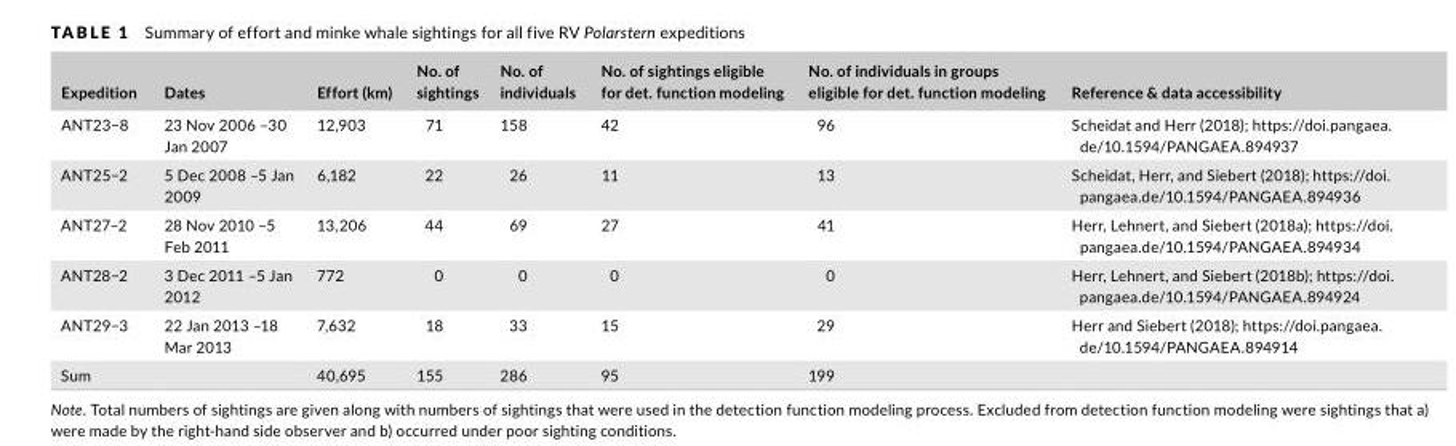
<table><thead><tr><td>Expedition</td><td>Dates</td><td>Effort (km)</td><td>No. of sightings</td><td>No. of individuals</td><td>No. of sightings eligible for det. function modeling</td><td>No. of individuals in groups eligible for det. function modeling</td><td>Reference &amp; data accessibility</td></tr></thead><tbody><tr><td>ANT23−8</td><td>23 Nov 2006 –30 Jan 2007</td><td>12,903</td><td>71</td><td>158</td><td>42</td><td>96</td><td>Scheidat and Herr (2018); https://doi.pangaea. de/10.1594/PANGAEA.894937</td></tr><tr><td>ANT25−2</td><td>5 Dec 2008 –5 Jan 2009</td><td>6,182</td><td>22</td><td>26</td><td>11</td><td>13</td><td>Scheidat, Herr, and Siebert (2018); https://doi. pangaea.de/10.1594/PANGAEA.894936</td></tr><tr><td>ANT27−2</td><td>28 Nov 2010 –5 Feb 2011</td><td>13,206</td><td>44</td><td>69</td><td>27</td><td>41</td><td>Herr, Lehnert, and Siebert (2018a); https://doi. pangaea.de/10.1594/PANGAEA.894934</td></tr><tr><td>ANT28−2</td><td>3 Dec 2011 –5 Jan 2012</td><td>772</td><td>0</td><td>0</td><td>0</td><td>0</td><td>Herr, Lehnert, and Siebert (2018b); https://doi. pangaea.de/10.1594/PANGAEA.894924</td></tr><tr><td>ANT29−3</td><td>22 Jan 2013 –18 Mar 2013</td><td>7,632</td><td>18</td><td>33</td><td>15</td><td>29</td><td>Herr and Siebert (2018); https://doi.pangaea. de/10.1594/PANGAEA.894914</td></tr><tr><td>Sum</td><td></td><td>40,695</td><td>155</td><td>286</td><td>95</td><td>199</td><td></td></tr></tbody></table>